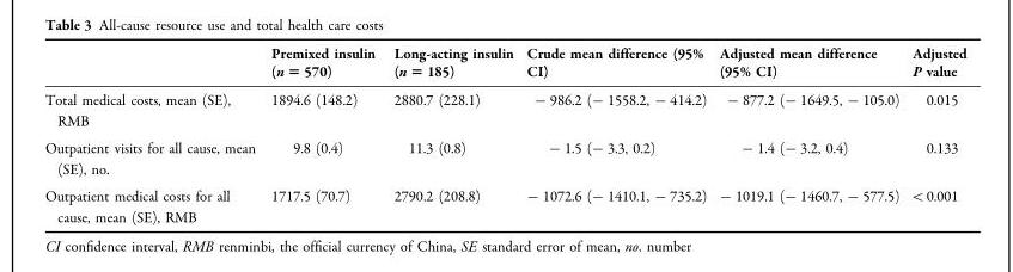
<table><thead><tr><td></td><td>Premixed insulin (n = 570)</td><td>Long-acting insulin (n = 185)</td><td>Crude mean difference (95% CI)</td><td>Adjusted mean difference (95% CI)</td><td>Adjusted P value</td></tr></thead><tbody><tr><td>Total medical costs, mean (SE), RMB</td><td>1894.6 (148.2)</td><td>2880.7 (228.1)</td><td>- 986.2 (- 1558.2, - 414.2)</td><td>- 877.2 (- 1649.5, - 105.0)</td><td>0.015</td></tr><tr><td>Outpatient visits for all cause, mean (SE), no.</td><td>9.8 (0.4)</td><td>11.3 (0.8)</td><td>- 1.5 (- 3.3, 0.2)</td><td>- 1.4 (- 3.2, 0.4)</td><td>0.133</td></tr><tr><td>Outpatient medical costs for all cause, mean (SE), RMB</td><td>1717.5 (70.7)</td><td>2790.2 (208.8)</td><td>- 1072.6 (- 1410.1, - 735.2)</td><td>- 1019.1 (- 1460.7, - 577.5)</td><td>&lt;0.001</td></tr></tbody></table>